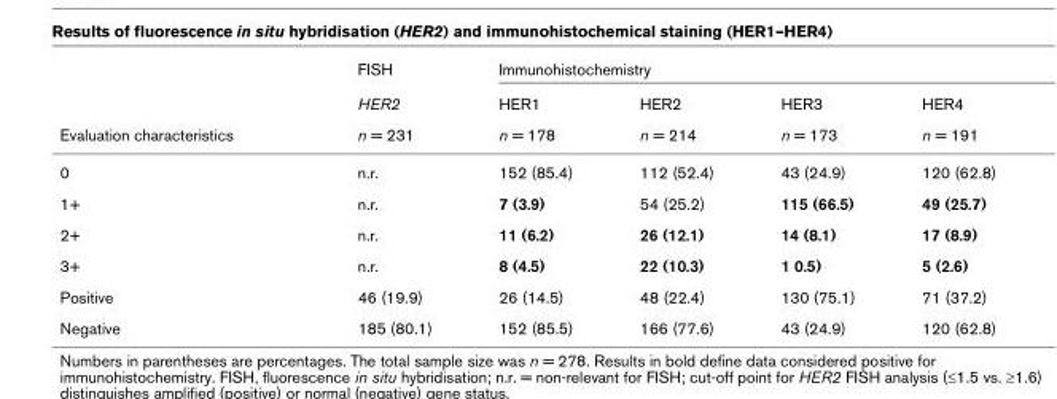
<table><thead><tr><td rowspan="3">Evaluation characteristics</td><td rowspan="3">FISH HER2 n = 231</td><td colspan="4">Immunohistochemistry</td></tr><tr><td rowspan="2">HER1 n = 178</td><td rowspan="2">HER2 n = 214</td><td rowspan="2">HER3 n = 173</td><td rowspan="2">HER4 n = 191</td></tr><tr></tr></thead><tbody><tr><td>0</td><td>n.r.</td><td>152 (85.4)</td><td>112 (52.4)</td><td>43 (24.9)</td><td>120 (62.8)</td></tr><tr><td>1+</td><td>n.r.</td><td>7 (3.9)</td><td>54 (25.2)</td><td>115 (66.5)</td><td>49 (25.7)</td></tr><tr><td>2+</td><td>n.r.</td><td>11 (6.2)</td><td>26 (12.1)</td><td>14 (8.1)</td><td>17 (8.9)</td></tr><tr><td>3+</td><td>n.r.</td><td>8 (4.5)</td><td>22 (10.3)</td><td>1 0.5)</td><td>5 (2.6)</td></tr><tr><td>Positive</td><td>46 (19.9)</td><td>26 (14.5)</td><td>48 (22.4)</td><td>130 (75.1)</td><td>71 (37.2)</td></tr><tr><td>Negative</td><td>185 (80.1)</td><td>152 (85.5)</td><td>166 (77.6)</td><td>43 (24.9)</td><td>120 (62.8)</td></tr></tbody></table>